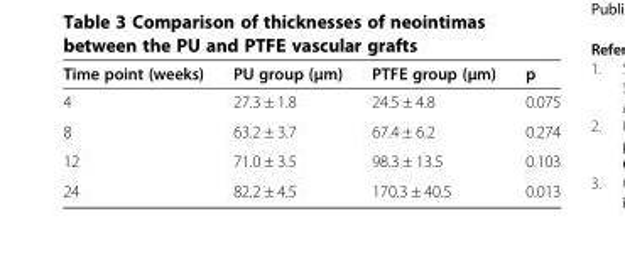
<table><thead><tr><td>Time point (weeks)</td><td>PU group (μm)</td><td>PTFE group (μm)</td><td>p</td></tr></thead><tbody><tr><td>4</td><td>27.3 ± 1.8</td><td>24.5 ± 4.8</td><td>0.075</td></tr><tr><td>8</td><td>63.2 ± 3.7</td><td>67.4 ± 6.2</td><td>0.274</td></tr><tr><td>12</td><td>71.0 ± 3.5</td><td>98.3 ± 13.5</td><td>0.103</td></tr><tr><td>24</td><td>82.2 ± 4.5</td><td>170.3 ± 40.5</td><td>0.013</td></tr></tbody></table>